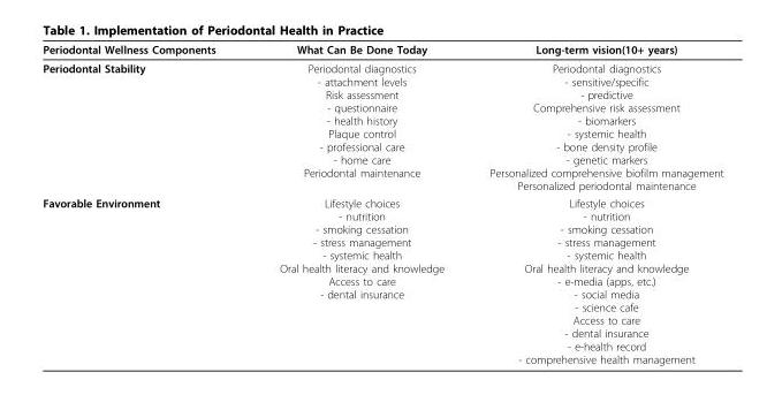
<table><thead><tr><td>Periodontal Wellness Components</td><td>What Can Be Done Today</td><td>Long-term vision(10+ years)</td></tr></thead><tbody><tr><td>Periodontal Stability</td><td>Periodontal diagnostics - attachment levels Risk assessment - questionnaire - health history Plaque control - professional care - home care Periodontal maintenance</td><td>Periodontal diagnostics - sensitive/specific - predictive Comprehensive risk assessment - biomarkers - systemic health - bone density profile - genetic markers Personalized comprehensive biofilm management Personalized periodontal maintenance</td></tr><tr><td>Favorable Environment</td><td>Lifestyle choices - nutrition - smoking cessation - stress management - systemic health Oral health literacy and knowledge Access to care - dental insurance</td><td>Lifestyle choices - nutrition - smoking cessation - stress management - systemic health Oral health literacy and knowledge - e-media (apps, etc.) - social media - science cafe Access to care - dental insurance - e-health record - comprehensive health management</td></tr></tbody></table>